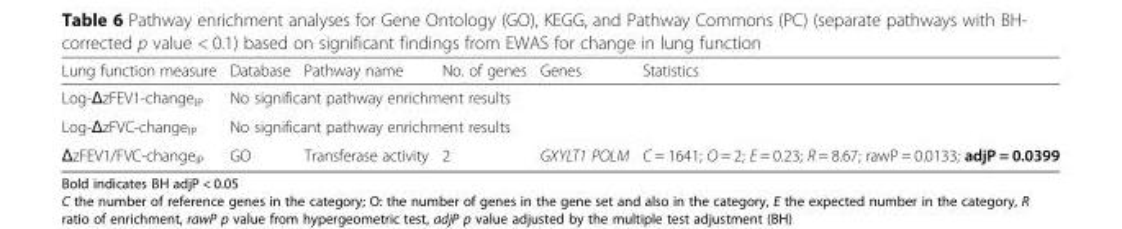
<table><thead><tr><td>Lung function measure</td><td>Database</td><td>Pathway name</td><td>No. of genes</td><td>Genes</td><td>Statistics</td></tr></thead><tbody><tr><td>Log-ΔzFEV1-change<sub>IP</sub></td><td colspan="3">No significant pathway enrichment results</td><td></td><td></td></tr><tr><td>Log-ΔzFVC-change<sub>IP</sub></td><td colspan="3">No significant pathway enrichment results</td><td></td><td></td></tr><tr><td>ΔzFEV1/FVC-change<sub>IP</sub></td><td>GO</td><td>Transferase activity</td><td>2</td><td>GXYLT1 POLM</td><td>C = 1641; O = 2; E = 0.23; R = 8.67; rawP = 0.0133; adjP = 0.0399</td></tr></tbody></table>